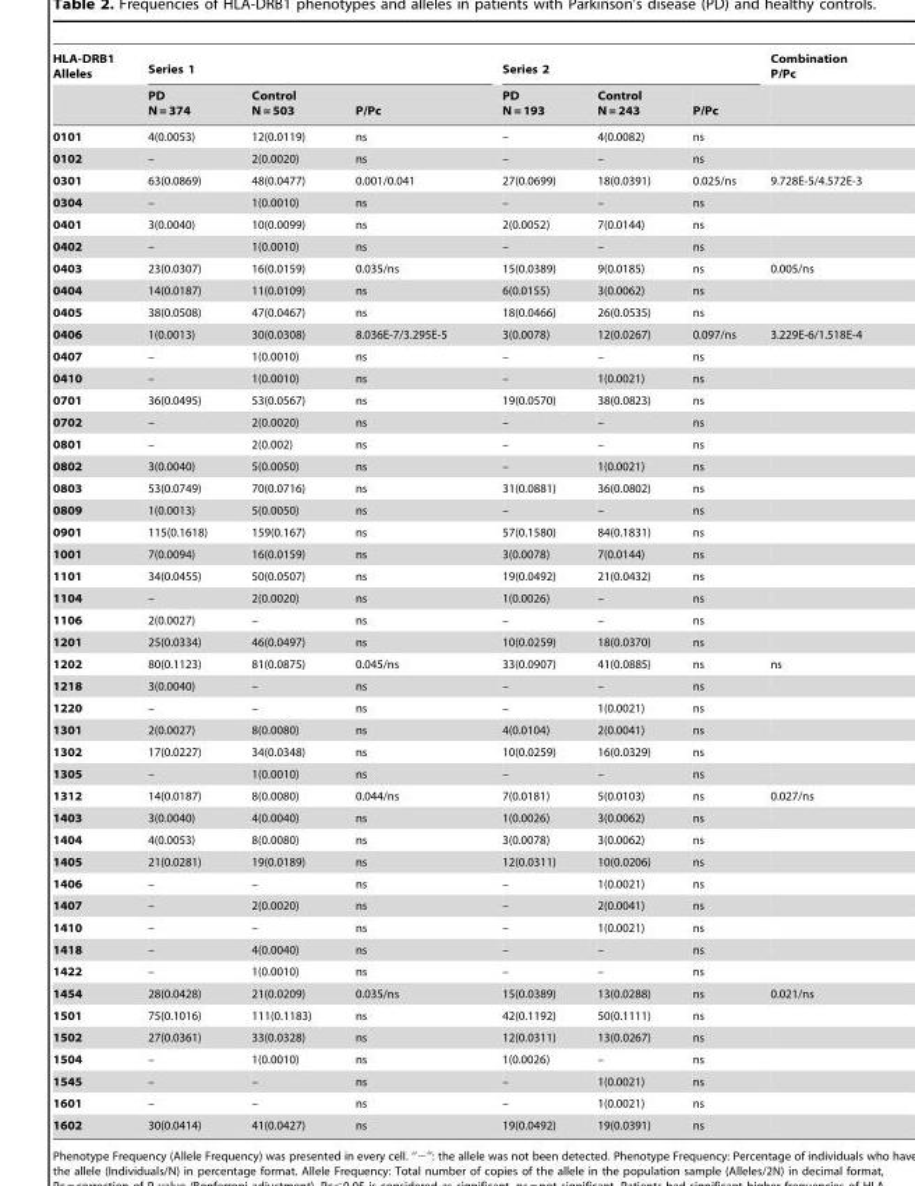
<table><thead><tr><td rowspan="2">HLA-DRB1 Alleles</td><td colspan="3">Series 1</td><td colspan="3">Series 2</td><td rowspan="2">Combination P/Pc</td></tr><tr><td>PD N = 374</td><td>Control N = 503</td><td>P/Pc</td><td>PD N = 193</td><td>Control N = 243</td><td>P/Pc</td></tr></thead><tbody><tr><td>0101</td><td>4(0.0053)</td><td>12(0.0119)</td><td>ns</td><td>–</td><td>4(0.0082)</td><td>ns</td><td></td></tr><tr><td>0102</td><td>–</td><td>2(0.0020)</td><td>ns</td><td>–</td><td>–</td><td>ns</td><td></td></tr><tr><td>0301</td><td>63(0.0869)</td><td>48(0.0477)</td><td>0.001/0.041</td><td>27(0.0699)</td><td>18(0.0391)</td><td>0.025/ns</td><td>9.728E-5/4.572E-3</td></tr><tr><td>0304</td><td>–</td><td>1(0.0010)</td><td>ns</td><td>–</td><td>–</td><td>ns</td><td></td></tr><tr><td>0401</td><td>3(0.0040)</td><td>10(0.0099)</td><td>ns</td><td>2(0.0052)</td><td>7(0.0144)</td><td>ns</td><td></td></tr><tr><td>0402</td><td>–</td><td>1(0.0010)</td><td>ns</td><td>–</td><td>–</td><td>ns</td><td></td></tr><tr><td>0403</td><td>23(0.0307)</td><td>16(0.0159)</td><td>0.035/ns</td><td>15(0.0389)</td><td>9(0.0185)</td><td>ns</td><td>0.005/ns</td></tr><tr><td>0404</td><td>14(0.0187)</td><td>11(0.0109)</td><td>ns</td><td>6(0.0155)</td><td>3(0.0062)</td><td>ns</td><td></td></tr><tr><td>0405</td><td>38(0.0508)</td><td>47(0.0467)</td><td>ns</td><td>18(0.0466)</td><td>26(0.0535)</td><td>ns</td><td></td></tr><tr><td>0406</td><td>1(0.0013)</td><td>30(0.0308)</td><td>8.036E-7/3.295E-5</td><td>3(0.0078)</td><td>12(0.0267)</td><td>0.097/ns</td><td>3.229E-6/1.518E-4</td></tr><tr><td>0407</td><td>–</td><td>1(0.0010)</td><td>ns</td><td>–</td><td>–</td><td>ns</td><td></td></tr><tr><td>0410</td><td>–</td><td>1(0.0010)</td><td>ns</td><td>–</td><td>1(0.0021)</td><td>ns</td><td></td></tr><tr><td>0701</td><td>36(0.0495)</td><td>53(0.0567)</td><td>ns</td><td>19(0.0570)</td><td>38(0.0823)</td><td>ns</td><td></td></tr><tr><td>0702</td><td>–</td><td>2(0.0020)</td><td>ns</td><td>–</td><td>–</td><td>ns</td><td></td></tr><tr><td>0801</td><td>–</td><td>2(0.002)</td><td>ns</td><td>–</td><td>–</td><td>ns</td><td></td></tr><tr><td>0802</td><td>3(0.0040)</td><td>5(0.0050)</td><td>ns</td><td>–</td><td>1(0.0021)</td><td>ns</td><td></td></tr><tr><td>0803</td><td>53(0.0749)</td><td>70(0.0716)</td><td>ns</td><td>31(0.0881)</td><td>36(0.0802)</td><td>ns</td><td></td></tr><tr><td>0809</td><td>1(0.0013)</td><td>5(0.0050)</td><td>ns</td><td>–</td><td>–</td><td>ns</td><td></td></tr><tr><td>0901</td><td>115(0.1618)</td><td>159(0.167)</td><td>ns</td><td>57(0.1580)</td><td>84(0.1831)</td><td>ns</td><td></td></tr><tr><td>1001</td><td>7(0.0094)</td><td>16(0.0159)</td><td>ns</td><td>3(0.0078)</td><td>7(0.0144)</td><td>ns</td><td></td></tr><tr><td>1101</td><td>34(0.0455)</td><td>50(0.0507)</td><td>ns</td><td>19(0.0492)</td><td>21(0.0432)</td><td>ns</td><td></td></tr><tr><td>1104</td><td>–</td><td>2(0.0020)</td><td>ns</td><td>1(0.0026)</td><td>–</td><td>ns</td><td></td></tr><tr><td>1106</td><td>2(0.0027)</td><td>–</td><td>ns</td><td>–</td><td>–</td><td>ns</td><td></td></tr><tr><td>1201</td><td>25(0.0334)</td><td>46(0.0497)</td><td>ns</td><td>10(0.0259)</td><td>18(0.0370)</td><td>ns</td><td></td></tr><tr><td>1202</td><td>80(0.1123)</td><td>81(0.0875)</td><td>0.045/ns</td><td>33(0.0907)</td><td>41(0.0885)</td><td>ns</td><td>ns</td></tr><tr><td>1218</td><td>3(0.0040)</td><td>–</td><td>ns</td><td>–</td><td>–</td><td>ns</td><td></td></tr><tr><td>1220</td><td>–</td><td>–</td><td>ns</td><td>–</td><td>1(0.0021)</td><td>ns</td><td></td></tr><tr><td>1301</td><td>2(0.0027)</td><td>8(0.0080)</td><td>ns</td><td>4(0.0104)</td><td>2(0.0041)</td><td>ns</td><td></td></tr><tr><td>1302</td><td>17(0.0227)</td><td>34(0.0348)</td><td>ns</td><td>10(0.0259)</td><td>16(0.0329)</td><td>ns</td><td></td></tr><tr><td>1305</td><td>–</td><td>1(0.0010)</td><td>ns</td><td>–</td><td>–</td><td>ns</td><td></td></tr><tr><td>1312</td><td>14(0.0187)</td><td>8(0.0080)</td><td>0.044/ns</td><td>7(0.0181)</td><td>5(0.0103)</td><td>ns</td><td>0.027/ns</td></tr><tr><td>1403</td><td>3(0.0040)</td><td>4(0.0040)</td><td>ns</td><td>1(0.0026)</td><td>3(0.0062)</td><td>ns</td><td></td></tr><tr><td>1404</td><td>4(0.0053)</td><td>8(0.0080)</td><td>ns</td><td>3(0.0078)</td><td>3(0.0062)</td><td>ns</td><td></td></tr><tr><td>1405</td><td>21(0.0281)</td><td>19(0.0189)</td><td>ns</td><td>12(0.0311)</td><td>10(0.0206)</td><td>ns</td><td></td></tr><tr><td>1406</td><td>–</td><td>–</td><td>ns</td><td>–</td><td>1(0.0021)</td><td>ns</td><td></td></tr><tr><td>1407</td><td>–</td><td>2(0.0020)</td><td>ns</td><td>–</td><td>2(0.0041)</td><td>ns</td><td></td></tr><tr><td>1410</td><td>–</td><td>–</td><td>ns</td><td>–</td><td>1(0.0021)</td><td>ns</td><td></td></tr><tr><td>1418</td><td>–</td><td>4(0.0040)</td><td>ns</td><td>–</td><td>–</td><td>ns</td><td></td></tr><tr><td>1422</td><td>–</td><td>1(0.0010)</td><td>ns</td><td>–</td><td>–</td><td>ns</td><td></td></tr><tr><td>1454</td><td>28(0.0428)</td><td>21(0.0209)</td><td>0.035/ns</td><td>15(0.0389)</td><td>13(0.0288)</td><td>ns</td><td>0.021/ns</td></tr><tr><td>1501</td><td>75(0.1016)</td><td>111(0.1183)</td><td>ns</td><td>42(0.1192)</td><td>50(0.1111)</td><td>ns</td><td></td></tr><tr><td>1502</td><td>27(0.0361)</td><td>33(0.0328)</td><td>ns</td><td>12(0.0311)</td><td>13(0.0267)</td><td>ns</td><td></td></tr><tr><td>1504</td><td>–</td><td>1(0.0010)</td><td>ns</td><td>1(0.0026)</td><td>–</td><td>ns</td><td></td></tr><tr><td>1545</td><td>–</td><td>–</td><td>ns</td><td>–</td><td>1(0.0021)</td><td>ns</td><td></td></tr><tr><td>1601</td><td>–</td><td>–</td><td>ns</td><td>–</td><td>1(0.0021)</td><td>ns</td><td></td></tr><tr><td>1602</td><td>30(0.0414)</td><td>41(0.0427)</td><td>ns</td><td>19(0.0492)</td><td>19(0.0391)</td><td>ns</td><td></td></tr></tbody></table>